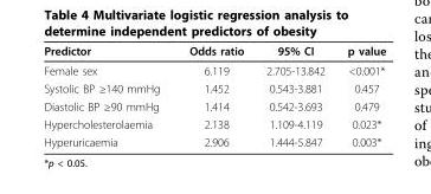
<table><thead><tr><td>Predictor</td><td>Odds ratio</td><td>95% CI</td><td>p value</td></tr></thead><tbody><tr><td>Female sex</td><td>6.119</td><td>2.705-13.842</td><td>&lt;0.001*</td></tr><tr><td>Systolic BP ≥140 mmHg</td><td>1.452</td><td>0.543-3.881</td><td>0.457</td></tr><tr><td>Diastolic BP ≥90 mmHg</td><td>1.414</td><td>0.542-3.693</td><td>0.479</td></tr><tr><td>Hypercholesterolaemia</td><td>2.138</td><td>1.109-4.119</td><td>0.023*</td></tr><tr><td>Hyperuricaemia</td><td>2.906</td><td>1.444-5.847</td><td>0.003*</td></tr></tbody></table>